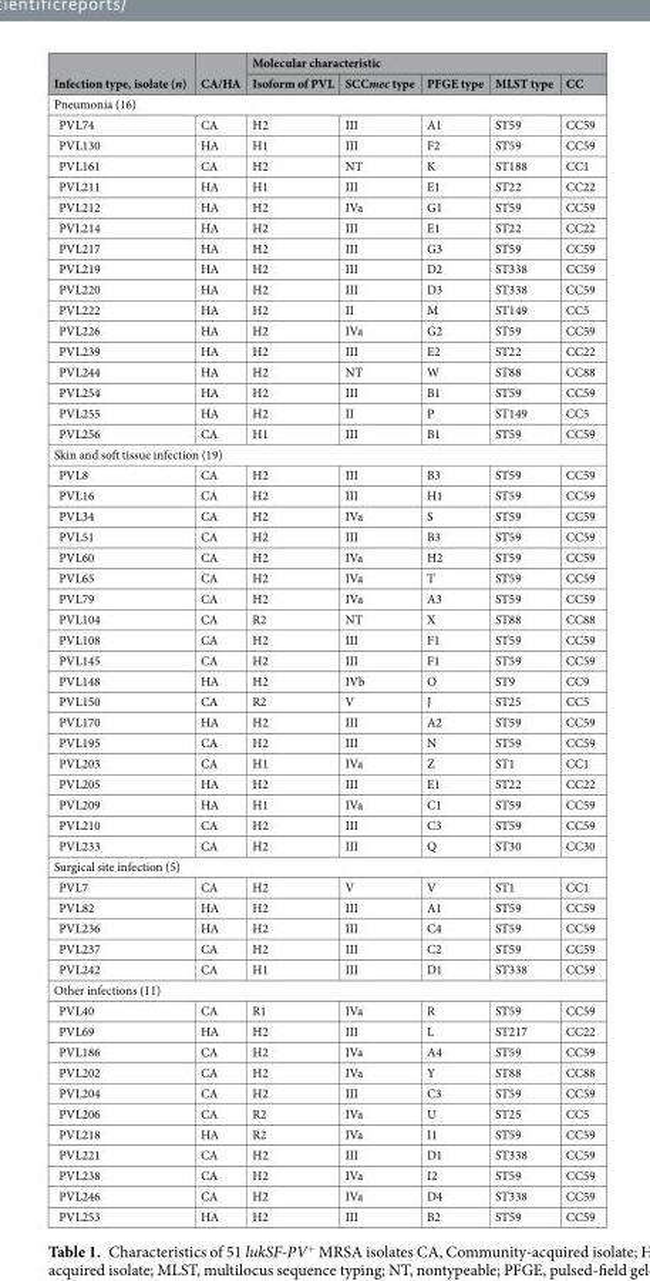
<table><thead><tr><td rowspan="2">Infection type, isolate (n)</td><td rowspan="2">CA/HA</td><td colspan="5">Molecular characteristic</td></tr><tr><td>Isoform of PVL</td><td>SCCmec type</td><td>PFGE type</td><td>MLST type</td><td>CC</td></tr></thead><tbody><tr><td colspan="7">Pneumonia (16)</td></tr><tr><td>PVL74</td><td>CA</td><td>H2</td><td>III</td><td>A1</td><td>ST59</td><td>CC59</td></tr><tr><td>PVL130</td><td>HA</td><td>H1</td><td>III</td><td>F2</td><td>ST59</td><td>CC59</td></tr><tr><td>PVL161</td><td>CA</td><td>H2</td><td>NT</td><td>K</td><td>ST188</td><td>CC1</td></tr><tr><td>PVL211</td><td>HA</td><td>H1</td><td>III</td><td>E1</td><td>ST22</td><td>CC22</td></tr><tr><td>PVL212</td><td>HA</td><td>H2</td><td>IVa</td><td>G1</td><td>ST59</td><td>CC59</td></tr><tr><td>PVL214</td><td>HA</td><td>H2</td><td>III</td><td>E1</td><td>ST22</td><td>CC22</td></tr><tr><td>PVL217</td><td>HA</td><td>H2</td><td>III</td><td>G3</td><td>ST59</td><td>CC59</td></tr><tr><td>PVL219</td><td>HA</td><td>H2</td><td>III</td><td>D2</td><td>ST338</td><td>CC59</td></tr><tr><td>PVL220</td><td>HA</td><td>H2</td><td>III</td><td>D3</td><td>ST338</td><td>CC59</td></tr><tr><td>PVL222</td><td>HA</td><td>H2</td><td>II</td><td>M</td><td>ST149</td><td>CC5</td></tr><tr><td>PVL226</td><td>HA</td><td>H2</td><td>IVa</td><td>G2</td><td>ST59</td><td>CC59</td></tr><tr><td>PVL239</td><td>HA</td><td>H2</td><td>III</td><td>E2</td><td>ST22</td><td>CC22</td></tr><tr><td>PVL244</td><td>HA</td><td>H2</td><td>NT</td><td>W</td><td>ST88</td><td>CC88</td></tr><tr><td>PVL254</td><td>HA</td><td>H2</td><td>III</td><td>B1</td><td>ST59</td><td>CC59</td></tr><tr><td>PVL255</td><td>HA</td><td>H2</td><td>II</td><td>P</td><td>ST149</td><td>CC5</td></tr><tr><td>PVL256</td><td>CA</td><td>H1</td><td>III</td><td>B1</td><td>ST59</td><td>CC59</td></tr><tr><td colspan="7">Skin and soft tissue infection (19)</td></tr><tr><td>PVL8</td><td>CA</td><td>H2</td><td>III</td><td>B3</td><td>ST59</td><td>CC59</td></tr><tr><td>PVL16</td><td>CA</td><td>H2</td><td>III</td><td>H1</td><td>ST59</td><td>CC59</td></tr><tr><td>PVL34</td><td>CA</td><td>H2</td><td>IVa</td><td>S</td><td>ST59</td><td>CC59</td></tr><tr><td>PVL51</td><td>CA</td><td>H2</td><td>III</td><td>B3</td><td>ST59</td><td>CC59</td></tr><tr><td>PVL60</td><td>CA</td><td>H2</td><td>IVa</td><td>H2</td><td>ST59</td><td>CC59</td></tr><tr><td>PVL65</td><td>CA</td><td>H2</td><td>IVa</td><td>T</td><td>ST59</td><td>CC59</td></tr><tr><td>PVL79</td><td>CA</td><td>H2</td><td>IVa</td><td>A3</td><td>ST59</td><td>CC59</td></tr><tr><td>PVL104</td><td>CA</td><td>R2</td><td>NT</td><td>X</td><td>ST88</td><td>CC88</td></tr><tr><td>PVL108</td><td>CA</td><td>H2</td><td>III</td><td>F1</td><td>ST59</td><td>CC59</td></tr><tr><td>PVL145</td><td>CA</td><td>H2</td><td>III</td><td>F1</td><td>ST59</td><td>CC59</td></tr><tr><td>PVL148</td><td>HA</td><td>H2</td><td>IVb</td><td>O</td><td>ST9</td><td>CC9</td></tr><tr><td>PVL150</td><td>CA</td><td>R2</td><td>V</td><td>J</td><td>ST25</td><td>CC5</td></tr><tr><td>PVL170</td><td>HA</td><td>H2</td><td>III</td><td>A2</td><td>ST59</td><td>CC59</td></tr><tr><td>PVL195</td><td>CA</td><td>H2</td><td>III</td><td>N</td><td>ST59</td><td>CC59</td></tr><tr><td>PVL203</td><td>CA</td><td>H1</td><td>IVa</td><td>Z</td><td>ST1</td><td>CC1</td></tr><tr><td>PVL205</td><td>HA</td><td>H2</td><td>III</td><td>E1</td><td>ST22</td><td>CC22</td></tr><tr><td>PVL209</td><td>HA</td><td>H1</td><td>IVa</td><td>C1</td><td>ST59</td><td>CC59</td></tr><tr><td>PVL210</td><td>CA</td><td>H2</td><td>III</td><td>C3</td><td>ST59</td><td>CC59</td></tr><tr><td>PVL233</td><td>CA</td><td>H2</td><td>III</td><td>Q</td><td>ST30</td><td>CC30</td></tr><tr><td colspan="7">Surgical site infection (5)</td></tr><tr><td>PVL7</td><td>CA</td><td>H2</td><td>V</td><td>V</td><td>ST1</td><td>CC1</td></tr><tr><td>PVL82</td><td>HA</td><td>H2</td><td>III</td><td>A1</td><td>ST59</td><td>CC59</td></tr><tr><td>PVL236</td><td>HA</td><td>H2</td><td>III</td><td>C4</td><td>ST59</td><td>CC59</td></tr><tr><td>PVL237</td><td>CA</td><td>H2</td><td>III</td><td>C2</td><td>ST59</td><td>CC59</td></tr><tr><td>PVL242</td><td>CA</td><td>H1</td><td>III</td><td>D1</td><td>ST338</td><td>CC59</td></tr><tr><td colspan="7">Other infections (11)</td></tr><tr><td>PVL40</td><td>CA</td><td>R1</td><td>IVa</td><td>R</td><td>ST59</td><td>CC59</td></tr><tr><td>PVL69</td><td>HA</td><td>H2</td><td>III</td><td>L</td><td>ST217</td><td>CC22</td></tr><tr><td>PVL186</td><td>CA</td><td>H2</td><td>IVa</td><td>A4</td><td>ST59</td><td>CC59</td></tr><tr><td>PVL202</td><td>CA</td><td>H2</td><td>IVa</td><td>Y</td><td>ST88</td><td>CC88</td></tr><tr><td>PVL204</td><td>CA</td><td>H2</td><td>III</td><td>C3</td><td>ST59</td><td>CC59</td></tr><tr><td>PVL206</td><td>CA</td><td>R2</td><td>IVa</td><td>U</td><td>ST25</td><td>CC5</td></tr><tr><td>PVL218</td><td>HA</td><td>R2</td><td>IVa</td><td>I1</td><td>ST59</td><td>CC59</td></tr><tr><td>PVL221</td><td>CA</td><td>H2</td><td>III</td><td>D1</td><td>ST338</td><td>CC59</td></tr><tr><td>PVL238</td><td>CA</td><td>H2</td><td>IVa</td><td>I2</td><td>ST59</td><td>CC59</td></tr><tr><td>PVL246</td><td>CA</td><td>H2</td><td>IVa</td><td>D4</td><td>ST338</td><td>CC59</td></tr><tr><td>PVL253</td><td>HA</td><td>H2</td><td>III</td><td>B2</td><td>ST59</td><td>CC59</td></tr></tbody></table>